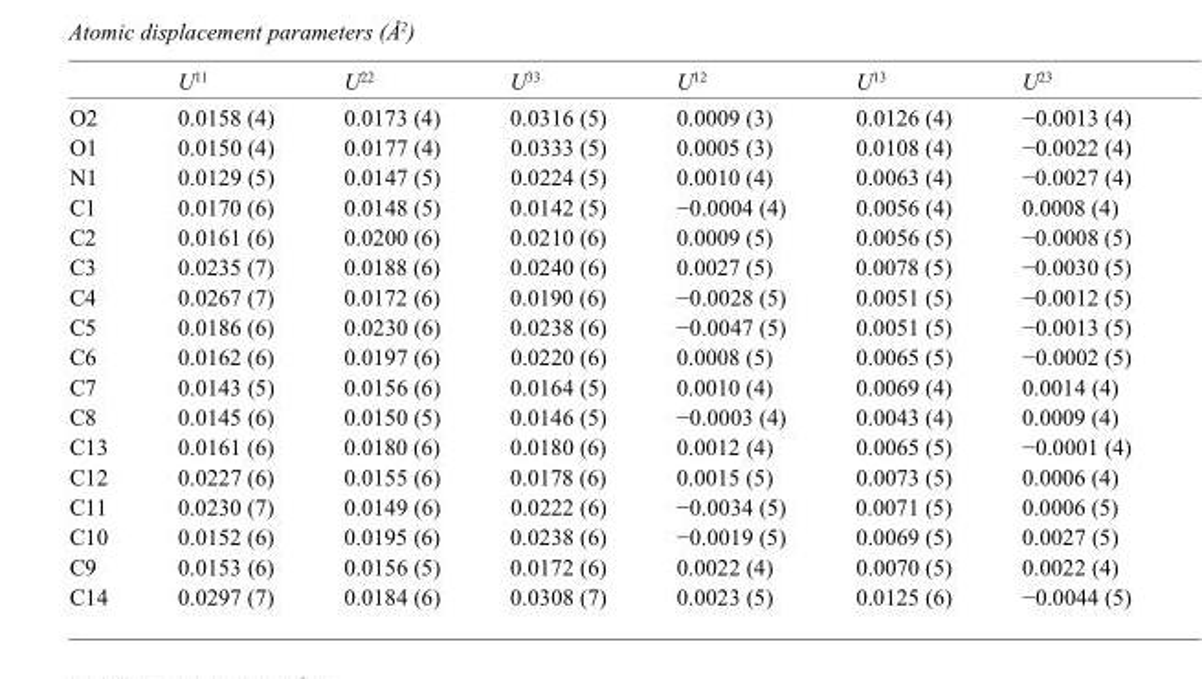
<table><thead><tr><td></td><td>U<sup>11</sup></td><td>U<sup>22</sup></td><td>U<sup>33</sup></td><td>U<sup>12</sup></td><td>U<sup>13</sup></td><td>U<sup>23</sup></td></tr></thead><tbody><tr><td>O2</td><td>0.0158 (4)</td><td>0.0173 (4)</td><td>0.0316 (5)</td><td>0.0009 (3)</td><td>0.0126 (4)</td><td>−0.0013 (4)</td></tr><tr><td>O1</td><td>0.0150 (4)</td><td>0.0177 (4)</td><td>0.0333 (5)</td><td>0.0005 (3)</td><td>0.0108 (4)</td><td>−0.0022 (4)</td></tr><tr><td>N1</td><td>0.0129 (5)</td><td>0.0147 (5)</td><td>0.0224 (5)</td><td>0.0010 (4)</td><td>0.0063 (4)</td><td>−0.0027 (4)</td></tr><tr><td>C1</td><td>0.0170 (6)</td><td>0.0148 (5)</td><td>0.0142 (5)</td><td>−0.0004 (4)</td><td>0.0056 (4)</td><td>0.0008 (4)</td></tr><tr><td>C2</td><td>0.0161 (6)</td><td>0.0200 (6)</td><td>0.0210 (6)</td><td>0.0009 (5)</td><td>0.0056 (5)</td><td>−0.0008 (5)</td></tr><tr><td>C3</td><td>0.0235 (7)</td><td>0.0188 (6)</td><td>0.0240 (6)</td><td>0.0027 (5)</td><td>0.0078 (5)</td><td>−0.0030 (5)</td></tr><tr><td>C4</td><td>0.0267 (7)</td><td>0.0172 (6)</td><td>0.0190 (6)</td><td>−0.0028 (5)</td><td>0.0051 (5)</td><td>−0.0012 (5)</td></tr><tr><td>C5</td><td>0.0186 (6)</td><td>0.0230 (6)</td><td>0.0238 (6)</td><td>−0.0047 (5)</td><td>0.0051 (5)</td><td>−0.0013 (5)</td></tr><tr><td>C6</td><td>0.0162 (6)</td><td>0.0197 (6)</td><td>0.0220 (6)</td><td>0.0008 (5)</td><td>0.0065 (5)</td><td>−0.0002 (5)</td></tr><tr><td>C7</td><td>0.0143 (5)</td><td>0.0156 (6)</td><td>0.0164 (5)</td><td>0.0010 (4)</td><td>0.0069 (4)</td><td>0.0014 (4)</td></tr><tr><td>C8</td><td>0.0145 (6)</td><td>0.0150 (5)</td><td>0.0146 (5)</td><td>−0.0003 (4)</td><td>0.0043 (4)</td><td>0.0009 (4)</td></tr><tr><td>C13</td><td>0.0161 (6)</td><td>0.0180 (6)</td><td>0.0180 (6)</td><td>0.0012 (4)</td><td>0.0065 (5)</td><td>−0.0001 (4)</td></tr><tr><td>C12</td><td>0.0227 (6)</td><td>0.0155 (6)</td><td>0.0178 (6)</td><td>0.0015 (5)</td><td>0.0073 (5)</td><td>0.0006 (4)</td></tr><tr><td>C11</td><td>0.0230 (7)</td><td>0.0149 (6)</td><td>0.0222 (6)</td><td>−0.0034 (5)</td><td>0.0071 (5)</td><td>0.0006 (5)</td></tr><tr><td>C10</td><td>0.0152 (6)</td><td>0.0195 (6)</td><td>0.0238 (6)</td><td>−0.0019 (5)</td><td>0.0069 (5)</td><td>0.0027 (5)</td></tr><tr><td>C9</td><td>0.0153 (6)</td><td>0.0156 (5)</td><td>0.0172 (6)</td><td>0.0022 (4)</td><td>0.0070 (5)</td><td>0.0022 (4)</td></tr><tr><td>C14</td><td>0.0297 (7)</td><td>0.0184 (6)</td><td>0.0308 (7)</td><td>0.0023 (5)</td><td>0.0125 (6)</td><td>−0.0044 (5)</td></tr></tbody></table>